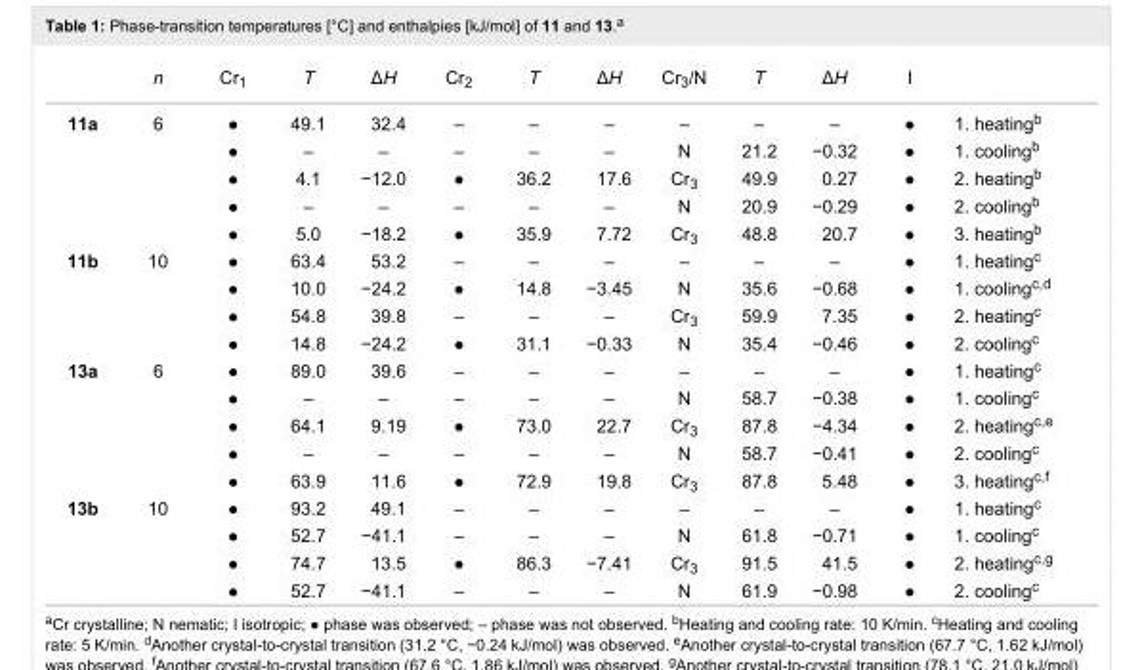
<table><thead><tr><td></td><td>n</td><td>Cr<sub>1</sub></td><td>T</td><td>ΔH</td><td>Cr<sub>2</sub></td><td>T</td><td>ΔH</td><td>Cr<sub>3</sub>/N</td><td>T</td><td>ΔH</td><td>I</td><td></td></tr></thead><tbody><tr><td rowspan="5">11a</td><td>6</td><td>●</td><td>49.1</td><td>32.4</td><td>–</td><td>–</td><td>–</td><td>–</td><td>–</td><td>–</td><td>●</td><td>1. heating<sup>b</sup></td></tr><tr><td></td><td>●</td><td>–</td><td>–</td><td>–</td><td>–</td><td>–</td><td>N</td><td>21.2</td><td>−0.32</td><td>●</td><td>1. cooling<sup>b</sup></td></tr><tr><td></td><td>●</td><td>4.1</td><td>−12.0</td><td>●</td><td>36.2</td><td>17.6</td><td>Cr<sub>3</sub></td><td>49.9</td><td>0.27</td><td>●</td><td>2. heating<sup>b</sup></td></tr><tr><td></td><td>●</td><td>–</td><td>–</td><td>–</td><td>–</td><td>–</td><td>N</td><td>20.9</td><td>−0.29</td><td>●</td><td>2. cooling<sup>b</sup></td></tr><tr><td></td><td>●</td><td>5.0</td><td>−18.2</td><td>●</td><td>35.9</td><td>7.72</td><td>Cr<sub>3</sub></td><td>48.8</td><td>20.7</td><td>●</td><td>3. heating<sup>b</sup></td></tr><tr><td rowspan="4">11b</td><td>10</td><td>●</td><td>63.4</td><td>53.2</td><td>–</td><td>–</td><td>–</td><td>–</td><td>–</td><td>–</td><td>●</td><td>1. heating<sup>c</sup></td></tr><tr><td></td><td>●</td><td>10.0</td><td>−24.2</td><td>●</td><td>14.8</td><td>−3.45</td><td>N</td><td>35.6</td><td>−0.68</td><td>●</td><td>1. cooling<sup>c,d</sup></td></tr><tr><td></td><td>●</td><td>54.8</td><td>39.8</td><td>–</td><td>–</td><td>–</td><td>Cr<sub>3</sub></td><td>59.9</td><td>7.35</td><td>●</td><td>2. heating<sup>c</sup></td></tr><tr><td></td><td>●</td><td>14.8</td><td>−24.2</td><td>●</td><td>31.1</td><td>−0.33</td><td>N</td><td>35.4</td><td>−0.46</td><td>●</td><td>2. cooling<sup>c</sup></td></tr><tr><td rowspan="5">13a</td><td>6</td><td>●</td><td>89.0</td><td>39.6</td><td>–</td><td>–</td><td>–</td><td>–</td><td>–</td><td>–</td><td>●</td><td>1. heating<sup>c</sup></td></tr><tr><td></td><td>●</td><td>–</td><td>–</td><td>–</td><td>–</td><td>–</td><td>N</td><td>58.7</td><td>−0.38</td><td>●</td><td>1. cooling<sup>c</sup></td></tr><tr><td></td><td>●</td><td>64.1</td><td>9.19</td><td>●</td><td>73.0</td><td>22.7</td><td>Cr<sub>3</sub></td><td>87.8</td><td>−4.34</td><td>●</td><td>2. heating<sup>c,e</sup></td></tr><tr><td></td><td>●</td><td>–</td><td>–</td><td>–</td><td>–</td><td>–</td><td>N</td><td>58.7</td><td>−0.41</td><td>●</td><td>2. cooling<sup>c</sup></td></tr><tr><td></td><td>●</td><td>63.9</td><td>11.6</td><td>●</td><td>72.9</td><td>19.8</td><td>Cr<sub>3</sub></td><td>87.8</td><td>5.48</td><td>●</td><td>3. heating<sup>c,f</sup></td></tr><tr><td rowspan="4">13b</td><td>10</td><td>●</td><td>93.2</td><td>49.1</td><td>–</td><td>–</td><td>–</td><td>–</td><td>–</td><td>–</td><td>●</td><td>1. heating<sup>c</sup></td></tr><tr><td></td><td>●</td><td>52.7</td><td>−41.1</td><td>–</td><td>–</td><td>–</td><td>N</td><td>61.8</td><td>−0.71</td><td>●</td><td>1. cooling<sup>c</sup></td></tr><tr><td></td><td>●</td><td>74.7</td><td>13.5</td><td>●</td><td>86.3</td><td>−7.41</td><td>Cr<sub>3</sub></td><td>91.5</td><td>41.5</td><td>●</td><td>2. heating<sup>c,g</sup></td></tr><tr><td></td><td>●</td><td>52.7</td><td>−41.1</td><td>–</td><td>–</td><td>–</td><td>N</td><td>61.9</td><td>−0.98</td><td>●</td><td>2. cooling<sup>c</sup></td></tr></tbody></table>